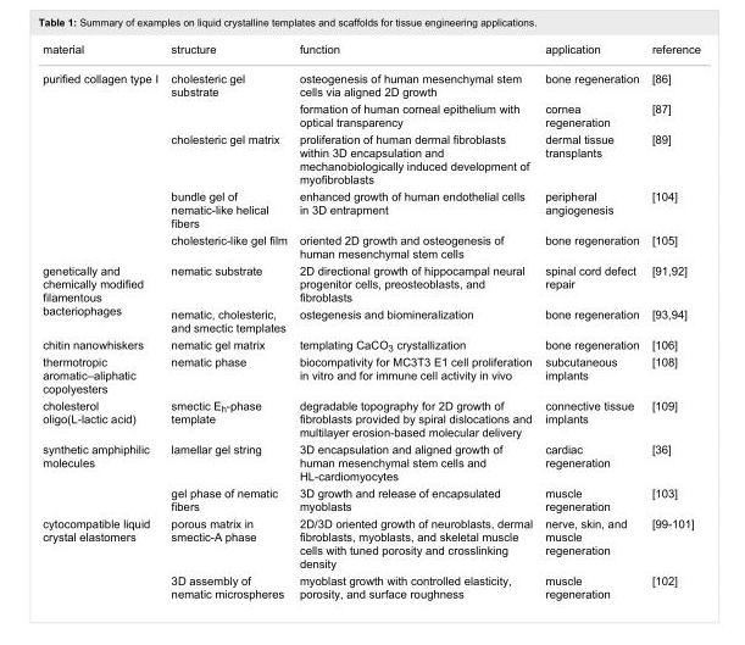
<table><tbody><tr><td>material</td><td>structure</td><td>function</td><td>application</td><td>reference</td></tr><tr><td rowspan="5">purified collagen type I</td><td rowspan="2">cholesteric gel substrate</td><td>osteogenesis of human mesenchymal stem cells via aligned 2D growth</td><td>bone regeneration</td><td>[86]</td></tr><tr><td>formation of human corneal epithelium with optical transparency</td><td>cornea regeneration</td><td>[87]</td></tr><tr><td>cholesteric gel matrix</td><td>proliferation of human dermal fibroblasts within 3D encapsulation and mechanobiologically induced development of myofibroblasts</td><td>dermal tissue transplants</td><td>[89]</td></tr><tr><td>bundle gel of nematic-like helical fibers</td><td>enhanced growth of human endothelial cells in 3D entrapment</td><td>peripheral angiogenesis</td><td>[104]</td></tr><tr><td>cholesteric-like gel film</td><td>oriented 2D growth and osteogenesis of human mesenchymal stem cells</td><td>bone regeneration</td><td>[105]</td></tr><tr><td rowspan="2">genetically and chemically modified filamentous bacteriophages</td><td>nematic substrate</td><td>2D directional growth of hippocampal neural progenitor cells, preosteoblasts, and fibroblasts</td><td>spinal cord defect repair</td><td>[91–92]</td></tr><tr><td>nematic, cholesteric, and smectic templates</td><td>ostegenesis and biomineralization</td><td>bone regeneration</td><td>[93–94]</td></tr><tr><td>chitin nanowhiskers</td><td>nematic gel matrix</td><td>templating CaCO<sub>3</sub> crystallization</td><td>bone regeneration</td><td>[106]</td></tr><tr><td>thermotropic aromatic–aliphatic copolyesters</td><td>nematic phase</td><td>biocompativity for MC3T3 E1 cell proliferation in vitro and for immune cell activity in vivo</td><td>subcutaneous implants</td><td>[108]</td></tr><tr><td>cholesterol oligo(L-lactic acid)</td><td>smectic E<sub>h</sub>-phase template</td><td>degradable topography for 2D growth of fibroblasts provided by spiral dislocations and multilayer erosion-based molecular delivery</td><td>connective tissue implants</td><td>[109]</td></tr><tr><td rowspan="2">synthetic amphiphilic molecules</td><td>lamellar gel string</td><td>3D encapsulation and aligned growth of human mesenchymal stem cells and HL-cardiomyocytes</td><td>cardiac regeneration</td><td>[36]</td></tr><tr><td>gel phase of nematic fibers</td><td>3D growth and release of encapsulated myoblasts</td><td>muscle regeneration</td><td>[103]</td></tr><tr><td rowspan="2">cytocompatible liquid crystal elastomers</td><td>porous matrix in smectic-A phase</td><td>2D/3D oriented growth of neuroblasts, dermal fibroblasts, myoblasts, and skeletal muscle cells with tuned porosity and crosslinking density</td><td>nerve, skin, and muscle regeneration</td><td>[99-101]</td></tr><tr><td>3D assembly of nematic microspheres</td><td>myoblast growth with controlled elasticity, porosity, and surface roughness</td><td>muscle regeneration</td><td>[102]</td></tr></tbody></table>